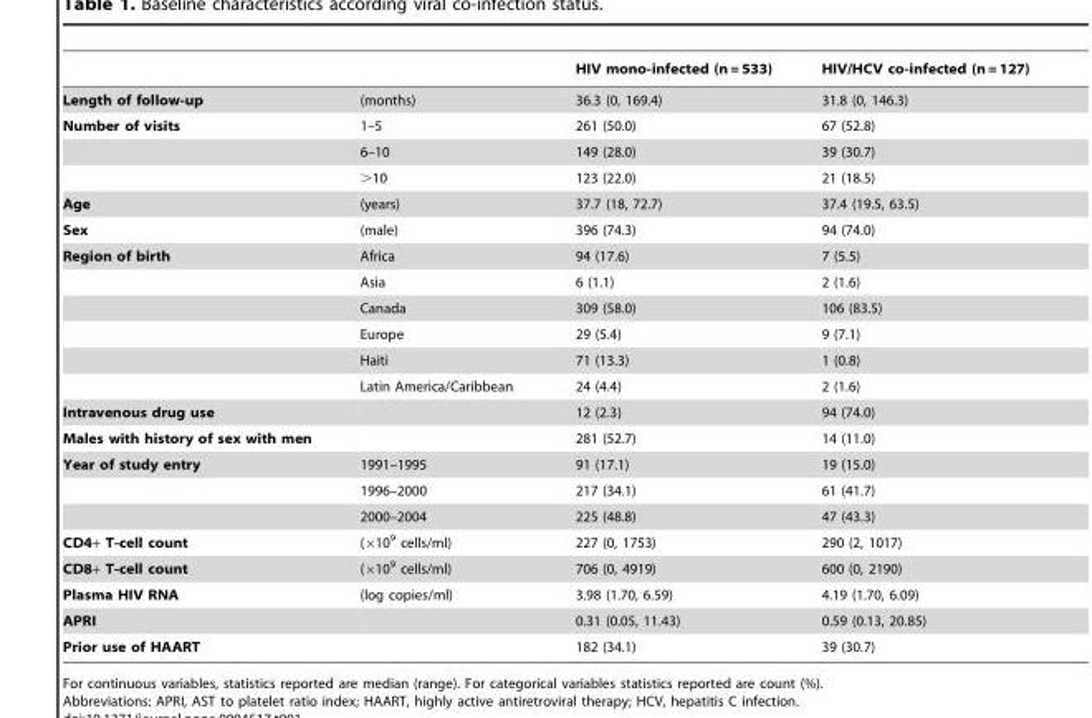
<table><thead><tr><td></td><td></td><td>HIV mono-infected (n = 533)</td><td>HIV/HCV co-infected (n = 127)</td></tr></thead><tbody><tr><td>Length of follow-up</td><td>(months)</td><td>36.3 (0, 169.4)</td><td>31.8 (0, 146.3)</td></tr><tr><td rowspan="3">Number of visits</td><td>1–5</td><td>261 (50.0)</td><td>67 (52.8)</td></tr><tr><td>6–10</td><td>149 (28.0)</td><td>39 (30.7)</td></tr><tr><td>&gt;10</td><td>123 (22.0)</td><td>21 (18.5)</td></tr><tr><td>Age</td><td>(years)</td><td>37.7 (18, 72.7)</td><td>37.4 (19.5, 63.5)</td></tr><tr><td>Sex</td><td>(male)</td><td>396 (74.3)</td><td>94 (74.0)</td></tr><tr><td rowspan="6">Region of birth</td><td>Africa</td><td>94 (17.6)</td><td>7 (5.5)</td></tr><tr><td>Asia</td><td>6 (1.1)</td><td>2 (1.6)</td></tr><tr><td>Canada</td><td>309 (58.0)</td><td>106 (83.5)</td></tr><tr><td>Europe</td><td>29 (5.4)</td><td>9 (7.1)</td></tr><tr><td>Haiti</td><td>71 (13.3)</td><td>1 (0.8)</td></tr><tr><td>Latin America/Caribbean</td><td>24 (4.4)</td><td>2 (1.6)</td></tr><tr><td>Intravenous drug use</td><td></td><td>12 (2.3)</td><td>94 (74.0)</td></tr><tr><td>Males with history of sex with men</td><td></td><td>281 (52.7)</td><td>14 (11.0)</td></tr><tr><td rowspan="3">Year of study entry</td><td>1991–1995</td><td>91 (17.1)</td><td>19 (15.0)</td></tr><tr><td>1996–2000</td><td>217 (34.1)</td><td>61 (41.7)</td></tr><tr><td>2000–2004</td><td>225 (48.8)</td><td>47 (43.3)</td></tr><tr><td>CD4+ T-cell count</td><td>(×10<sup>9</sup> cells/ml)</td><td>227 (0, 1753)</td><td>290 (2, 1017)</td></tr><tr><td>CD8+ T-cell count</td><td>(×10<sup>9</sup> cells/ml)</td><td>706 (0, 4919)</td><td>600 (0, 2190)</td></tr><tr><td>Plasma HIV RNA</td><td>(log copies/ml)</td><td>3.98 (1.70, 6.59)</td><td>4.19 (1.70, 6.09)</td></tr><tr><td>APRI</td><td></td><td>0.31 (0.05, 11.43)</td><td>0.59 (0.13, 20.85)</td></tr><tr><td>Prior use of HAART</td><td></td><td>182 (34.1)</td><td>39 (30.7)</td></tr></tbody></table>